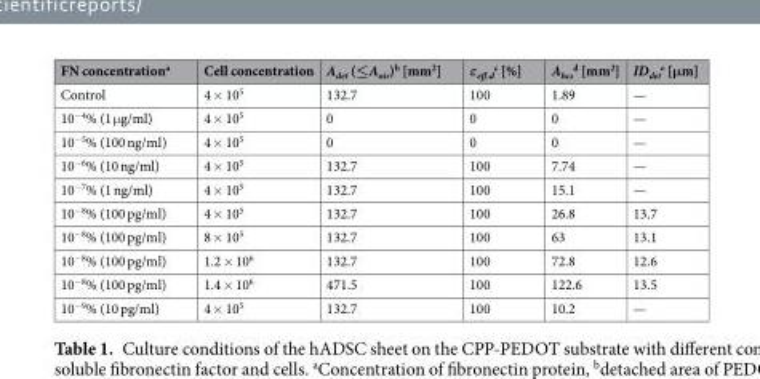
<table><thead><tr><td>FN concentration<sup>a</sup></td><td>Cell concentration</td><td>A<sub>det</sub> (≤A<sub>nir</sub>)<sup>b</sup> [mm<sup>2</sup>]</td><td>ε<sub>eff.d</sub> <sup>c</sup> [%]</td><td>A<sub>hcs</sub> <sup>d</sup> [mm<sup>2</sup>]</td><td>ID<sub>det</sub> <sup>e</sup> [μm]</td></tr></thead><tbody><tr><td>Control</td><td>4 × 10<sup>5</sup></td><td>132.7</td><td>100</td><td>1.89</td><td>—</td></tr><tr><td>10<sup>−4</sup>% (1 μg/ml)</td><td>4 × 10<sup>5</sup></td><td>0</td><td>0</td><td>0</td><td>—</td></tr><tr><td>10<sup>−5</sup>% (100 ng/ml)</td><td>4 × 10<sup>5</sup></td><td>0</td><td>0</td><td>0</td><td>—</td></tr><tr><td>10<sup>−6</sup>% (10 ng/ml)</td><td>4 × 10<sup>5</sup></td><td>132.7</td><td>100</td><td>7.74</td><td>—</td></tr><tr><td>10<sup>−7</sup>% (1 ng/ml)</td><td>4 × 10<sup>5</sup></td><td>132.7</td><td>100</td><td>15.1</td><td>—</td></tr><tr><td>10<sup>−8</sup>% (100 pg/ml)</td><td>4 × 10<sup>5</sup></td><td>132.7</td><td>100</td><td>26.8</td><td>13.7</td></tr><tr><td>10<sup>−8</sup>% (100 pg/ml)</td><td>8 × 10<sup>5</sup></td><td>132.7</td><td>100</td><td>63</td><td>13.1</td></tr><tr><td>10<sup>−8</sup>% (100 pg/ml)</td><td>1.2 × 10<sup>6</sup></td><td>132.7</td><td>100</td><td>72.8</td><td>12.6</td></tr><tr><td>10<sup>−8</sup>% (100 pg/ml)</td><td>1.4 × 10<sup>6</sup></td><td>471.5</td><td>100</td><td>122.6</td><td>13.5</td></tr><tr><td>10<sup>−9</sup>% (10 pg/ml)</td><td>4 × 10<sup>5</sup></td><td>132.7</td><td>100</td><td>10.2</td><td>—</td></tr></tbody></table>